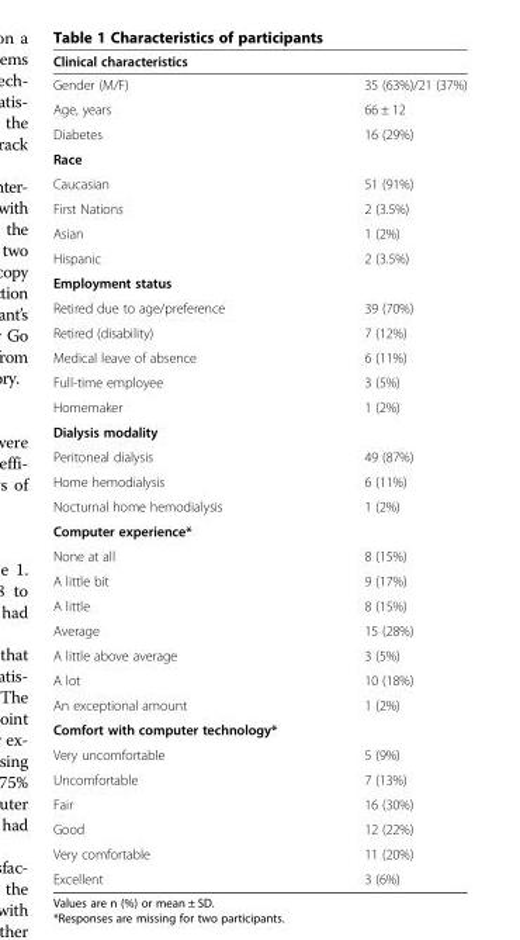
<table><thead><tr><td>Clinical characteristics</td><td></td></tr></thead><tbody><tr><td>Gender (M/F)</td><td>35 (63%)/21 (37%)</td></tr><tr><td>Age, years</td><td>66 ± 12</td></tr><tr><td>Diabetes</td><td>16 (29%)</td></tr><tr><td colspan="2">Race</td></tr><tr><td>Caucasian</td><td>51 (91%)</td></tr><tr><td>First Nations</td><td>2 (3.5%)</td></tr><tr><td>Asian</td><td>1 (2%)</td></tr><tr><td>Hispanic</td><td>2 (3.5%)</td></tr><tr><td colspan="2">Employment status</td></tr><tr><td>Retired due to age/preference</td><td>39 (70%)</td></tr><tr><td>Retired (disability)</td><td>7 (12%)</td></tr><tr><td>Medical leave of absence</td><td>6 (11%)</td></tr><tr><td>Full-time employee</td><td>3 (5%)</td></tr><tr><td>Homemaker</td><td>1 (2%)</td></tr><tr><td colspan="2">Dialysis modality</td></tr><tr><td>Peritoneal dialysis</td><td>49 (87%)</td></tr><tr><td>Home hemodialysis</td><td>6 (11%)</td></tr><tr><td>Nocturnal home hemodialysis</td><td>1 (2%)</td></tr><tr><td colspan="2">Computer experience*</td></tr><tr><td>None at all</td><td>8 (15%)</td></tr><tr><td>A little bit</td><td>9 (17%)</td></tr><tr><td>A little</td><td>8 (15%)</td></tr><tr><td>Average</td><td>15 (28%)</td></tr><tr><td>A little above average</td><td>3 (5%)</td></tr><tr><td>A lot</td><td>10 (18%)</td></tr><tr><td>An exceptional amount</td><td>1 (2%)</td></tr><tr><td colspan="2">Comfort with computer technology*</td></tr><tr><td>Very uncomfortable</td><td>5 (9%)</td></tr><tr><td>Uncomfortable</td><td>7 (13%)</td></tr><tr><td>Fair</td><td>16 (30%)</td></tr><tr><td>Good</td><td>12 (22%)</td></tr><tr><td>Very comfortable</td><td>11 (20%)</td></tr><tr><td>Excellent</td><td>3 (6%)</td></tr></tbody></table>